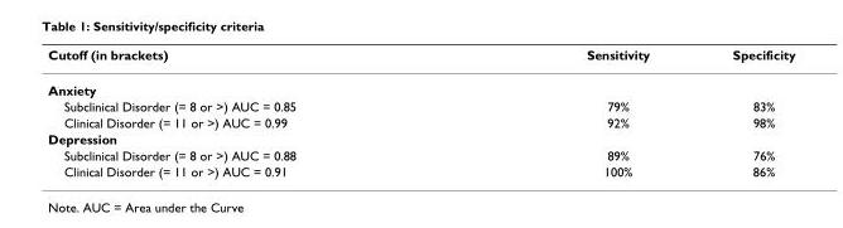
<table><thead><tr><td>Cutoff (in brackets)</td><td>Sensitivity</td><td>Specificity</td></tr></thead><tbody><tr><td colspan="3">Anxiety</td></tr><tr><td>Subclinical Disorder (= 8 or &gt;) AUC = 0.85</td><td>79%</td><td>83%</td></tr><tr><td>Clinical Disorder (= 11 or &gt;) AUC = 0.99</td><td>92%</td><td>98%</td></tr><tr><td colspan="3">Depression</td></tr><tr><td>Subclinical Disorder (= 8 or &gt;) AUC = 0.88</td><td>89%</td><td>76%</td></tr><tr><td>Clinical Disorder (= 11 or &gt;) AUC = 0.91</td><td>100%</td><td>86%</td></tr></tbody></table>